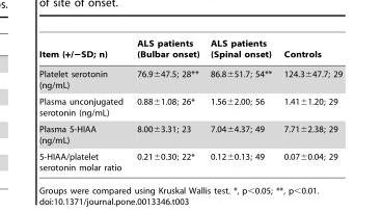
<table><thead><tr><td>Item (+/−SD; n)</td><td>ALS patients (Bulbar onset)</td><td>ALS patients (Spinal onset)</td><td>Controls</td></tr></thead><tbody><tr><td>Platelet serotonin (ng/mL)</td><td>76.9±47.5; 28**</td><td>86.8±51.7; 54**</td><td>124.3±47.7; 29</td></tr><tr><td>Plasma unconjugated serotonin (ng/mL)</td><td>0.88±1.08; 26*</td><td>1.56±2.00; 56</td><td>1.41±1.20; 29</td></tr><tr><td>Plasma 5-HIAA (ng/mL)</td><td>8.00±3.31; 23</td><td>7.04±4.37; 49</td><td>7.71±2.38; 29</td></tr><tr><td>5-HIAA/platelet serotonin molar ratio</td><td>0.21±0.30; 22*</td><td>0.12±0.13; 49</td><td>0.07±0.04; 29</td></tr></tbody></table>